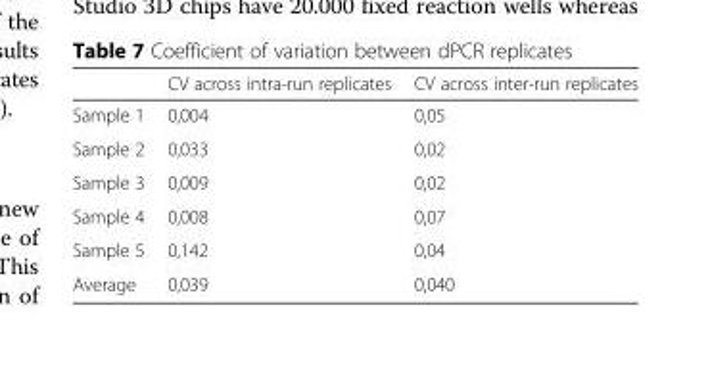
<table><thead><tr><td></td><td>CV across intra-run replicates</td><td>CV across inter-run replicates</td></tr></thead><tbody><tr><td>Sample 1</td><td>0,004</td><td>0,05</td></tr><tr><td>Sample 2</td><td>0,033</td><td>0,02</td></tr><tr><td>Sample 3</td><td>0,009</td><td>0,02</td></tr><tr><td>Sample 4</td><td>0,008</td><td>0,07</td></tr><tr><td>Sample 5</td><td>0,142</td><td>0,04</td></tr><tr><td>Average</td><td>0,039</td><td>0,040</td></tr></tbody></table>